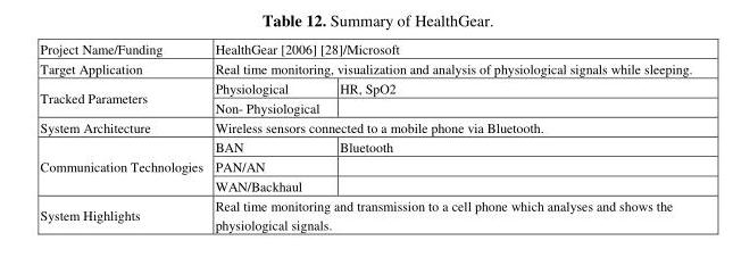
<table><tbody><tr><td>Project Name/Funding</td><td colspan="2">HealthGear [2006] [28]/Microsoft</td></tr><tr><td>Target Application</td><td colspan="2">Real time monitoring, visualization and analysis of physiological signals while sleeping.</td></tr><tr><td rowspan="2">Tracked Parameters</td><td>Physiological</td><td>HR, SpO2</td></tr><tr><td>Non- Physiological</td><td></td></tr><tr><td>System Architecture</td><td colspan="2">Wireless sensors connected to a mobile phone via Bluetooth.</td></tr><tr><td rowspan="3">Communication Technologies</td><td>BAN</td><td>Bluetooth</td></tr><tr><td>PAN/AN</td><td></td></tr><tr><td>WAN/Backhaul</td><td></td></tr><tr><td>System Highlights</td><td colspan="2">Real time monitoring and transmission to a cell phone which analyses and shows the physiological signals.</td></tr></tbody></table>